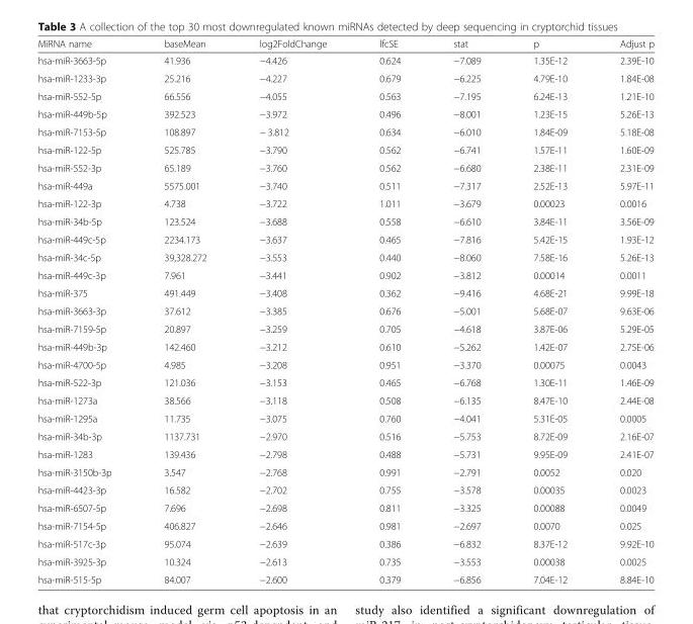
<table><thead><tr><td>MiRNA name</td><td>baseMean</td><td>log2FoldChange</td><td>lfcSE</td><td>stat</td><td>p</td><td>Adjust p</td></tr></thead><tbody><tr><td>hsa-miR-3663-5p</td><td>41.936</td><td>−4.426</td><td>0.624</td><td>−7.089</td><td>1.35E-12</td><td>2.39E-10</td></tr><tr><td>hsa-miR-1233-3p</td><td>25.216</td><td>−4.227</td><td>0.679</td><td>−6.225</td><td>4.79E-10</td><td>1.84E-08</td></tr><tr><td>hsa-miR-552-5p</td><td>66.556</td><td>−4.055</td><td>0.563</td><td>−7.195</td><td>6.24E-13</td><td>1.21E-10</td></tr><tr><td>hsa-miR-449b-5p</td><td>392.523</td><td>−3.972</td><td>0.496</td><td>−8.001</td><td>1.23E-15</td><td>5.26E-13</td></tr><tr><td>hsa-miR-7153-5p</td><td>108.897</td><td>− 3.812</td><td>0.634</td><td>−6.010</td><td>1.84E-09</td><td>5.18E-08</td></tr><tr><td>hsa-miR-122-5p</td><td>525.785</td><td>−3.790</td><td>0.562</td><td>−6.741</td><td>1.57E-11</td><td>1.60E-09</td></tr><tr><td>hsa-miR-552-3p</td><td>65.189</td><td>−3.760</td><td>0.562</td><td>−6.680</td><td>2.38E-11</td><td>2.31E-09</td></tr><tr><td>hsa-miR-449a</td><td>5575.001</td><td>−3.740</td><td>0.511</td><td>−7.317</td><td>2.52E-13</td><td>5.97E-11</td></tr><tr><td>hsa-miR-122-3p</td><td>4.738</td><td>−3.722</td><td>1.011</td><td>−3.679</td><td>0.00023</td><td>0.0016</td></tr><tr><td>hsa-miR-34b-5p</td><td>123.524</td><td>−3.688</td><td>0.558</td><td>−6.610</td><td>3.84E-11</td><td>3.56E-09</td></tr><tr><td>hsa-miR-449c-5p</td><td>2234.173</td><td>−3.637</td><td>0.465</td><td>−7.816</td><td>5.42E-15</td><td>1.93E-12</td></tr><tr><td>hsa-miR-34c-5p</td><td>39,328.272</td><td>−3.553</td><td>0.440</td><td>−8.060</td><td>7.58E-16</td><td>5.26E-13</td></tr><tr><td>hsa-miR-449c-3p</td><td>7.961</td><td>−3.441</td><td>0.902</td><td>−3.812</td><td>0.00014</td><td>0.0011</td></tr><tr><td>hsa-miR-375</td><td>491.449</td><td>−3.408</td><td>0.362</td><td>−9.416</td><td>4.68E-21</td><td>9.99E-18</td></tr><tr><td>hsa-miR-3663-3p</td><td>37.612</td><td>−3.385</td><td>0.676</td><td>−5.001</td><td>5.68E-07</td><td>9.63E-06</td></tr><tr><td>hsa-miR-7159-5p</td><td>20.897</td><td>−3.259</td><td>0.705</td><td>−4.618</td><td>3.87E-06</td><td>5.29E-05</td></tr><tr><td>hsa-miR-449b-3p</td><td>142.460</td><td>−3.212</td><td>0.610</td><td>−5.262</td><td>1.42E-07</td><td>2.75E-06</td></tr><tr><td>hsa-miR-4700-5p</td><td>4.985</td><td>−3.208</td><td>0.951</td><td>−3.370</td><td>0.00075</td><td>0.0043</td></tr><tr><td>hsa-miR-522-3p</td><td>121.036</td><td>−3.153</td><td>0.465</td><td>−6.768</td><td>1.30E-11</td><td>1.46E-09</td></tr><tr><td>hsa-miR-1273a</td><td>38.566</td><td>−3.118</td><td>0.508</td><td>−6.135</td><td>8.47E-10</td><td>2.44E-08</td></tr><tr><td>hsa-miR-1295a</td><td>11.735</td><td>−3.075</td><td>0.760</td><td>−4.041</td><td>5.31E-05</td><td>0.0005</td></tr><tr><td>hsa-miR-34b-3p</td><td>1137.731</td><td>−2.970</td><td>0.516</td><td>−5.753</td><td>8.72E-09</td><td>2.16E-07</td></tr><tr><td>hsa-miR-1283</td><td>139.436</td><td>−2.798</td><td>0.488</td><td>−5.731</td><td>9.95E-09</td><td>2.41E-07</td></tr><tr><td>hsa-miR-3150b-3p</td><td>3.547</td><td>−2.768</td><td>0.991</td><td>−2.791</td><td>0.0052</td><td>0.020</td></tr><tr><td>hsa-miR-4423-3p</td><td>16.582</td><td>−2.702</td><td>0.755</td><td>−3.578</td><td>0.00035</td><td>0.0023</td></tr><tr><td>hsa-miR-6507-5p</td><td>7.696</td><td>−2.698</td><td>0.811</td><td>−3.325</td><td>0.00088</td><td>0.0049</td></tr><tr><td>hsa-miR-7154-5p</td><td>406.827</td><td>−2.646</td><td>0.981</td><td>−2.697</td><td>0.0070</td><td>0.025</td></tr><tr><td>hsa-miR-517c-3p</td><td>95.074</td><td>−2.639</td><td>0.386</td><td>−6.832</td><td>8.37E-12</td><td>9.92E-10</td></tr><tr><td>hsa-miR-3925-3p</td><td>10.324</td><td>−2.613</td><td>0.735</td><td>−3.553</td><td>0.00038</td><td>0.0025</td></tr><tr><td>hsa-miR-515-5p</td><td>84.007</td><td>−2.600</td><td>0.379</td><td>−6.856</td><td>7.04E-12</td><td>8.84E-10</td></tr></tbody></table>